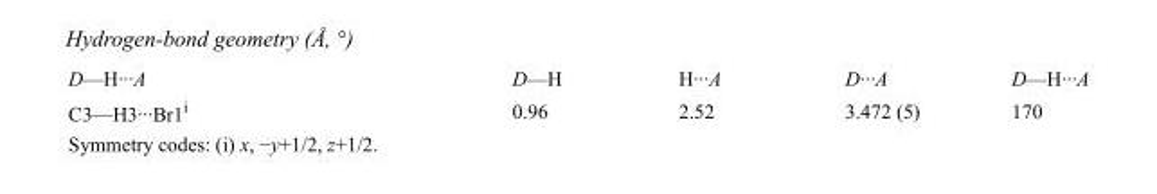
<table><tbody><tr><td>D—H···A</td><td>D—H</td><td>H···A</td><td>D···A</td><td>D—H···A</td></tr><tr><td>C3—H3···Br1<sup>i</sup></td><td>0.96</td><td>2.52</td><td>3.472 (5)</td><td>170</td></tr></tbody></table>